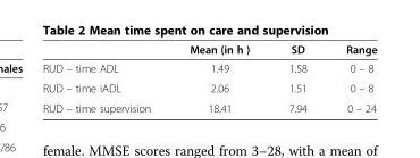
<table><thead><tr><td></td><td>Mean (in h )</td><td>SD</td><td>Range</td></tr></thead><tbody><tr><td>RUD – time ADL</td><td>1.49</td><td>1.58</td><td>0 – 8</td></tr><tr><td>RUD – time iADL</td><td>2.06</td><td>1.51</td><td>0 – 8</td></tr><tr><td>RUD – time supervision</td><td>18.41</td><td>7.94</td><td>0 – 24</td></tr></tbody></table>